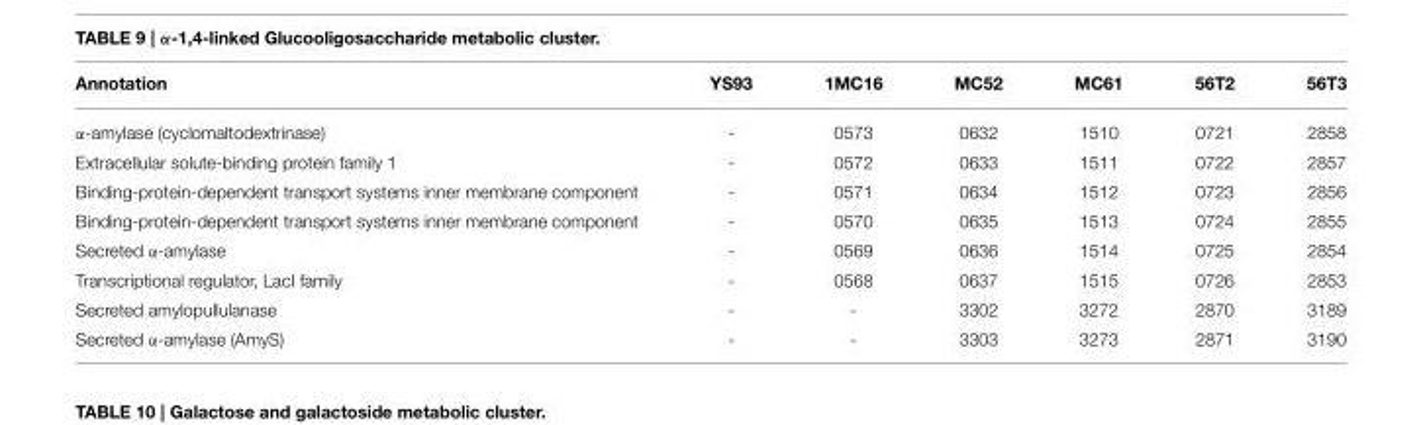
<table><thead><tr><td>Annotation</td><td>YS93</td><td>1MC16</td><td>MC52</td><td>MC61</td><td>56T2</td><td>56T3</td></tr></thead><tbody><tr><td>α-amylase (cyclomaltodextrinase)</td><td>-</td><td>0573</td><td>0632</td><td>1510</td><td>0721</td><td>2858</td></tr><tr><td>Extracellular solute-binding protein family 1</td><td>-</td><td>0572</td><td>0633</td><td>1511</td><td>0722</td><td>2857</td></tr><tr><td>Binding-protein-dependent transport systems inner membrane component</td><td>-</td><td>0571</td><td>0634</td><td>1512</td><td>0723</td><td>2856</td></tr><tr><td>Binding-protein-dependent transport systems inner membrane component</td><td>-</td><td>0570</td><td>0635</td><td>1513</td><td>0724</td><td>2855</td></tr><tr><td>Secreted α-amylase</td><td>-</td><td>0569</td><td>0636</td><td>1514</td><td>0725</td><td>2854</td></tr><tr><td>Transcriptional regulator, LacI family</td><td>-</td><td>0568</td><td>0637</td><td>1515</td><td>0726</td><td>2853</td></tr><tr><td>Secreted amylopullulanase</td><td>-</td><td>-</td><td>3302</td><td>3272</td><td>2870</td><td>3189</td></tr><tr><td>Secreted α-amylase (AmyS)</td><td>-</td><td>-</td><td>3303</td><td>3273</td><td>2871</td><td>3190</td></tr></tbody></table>